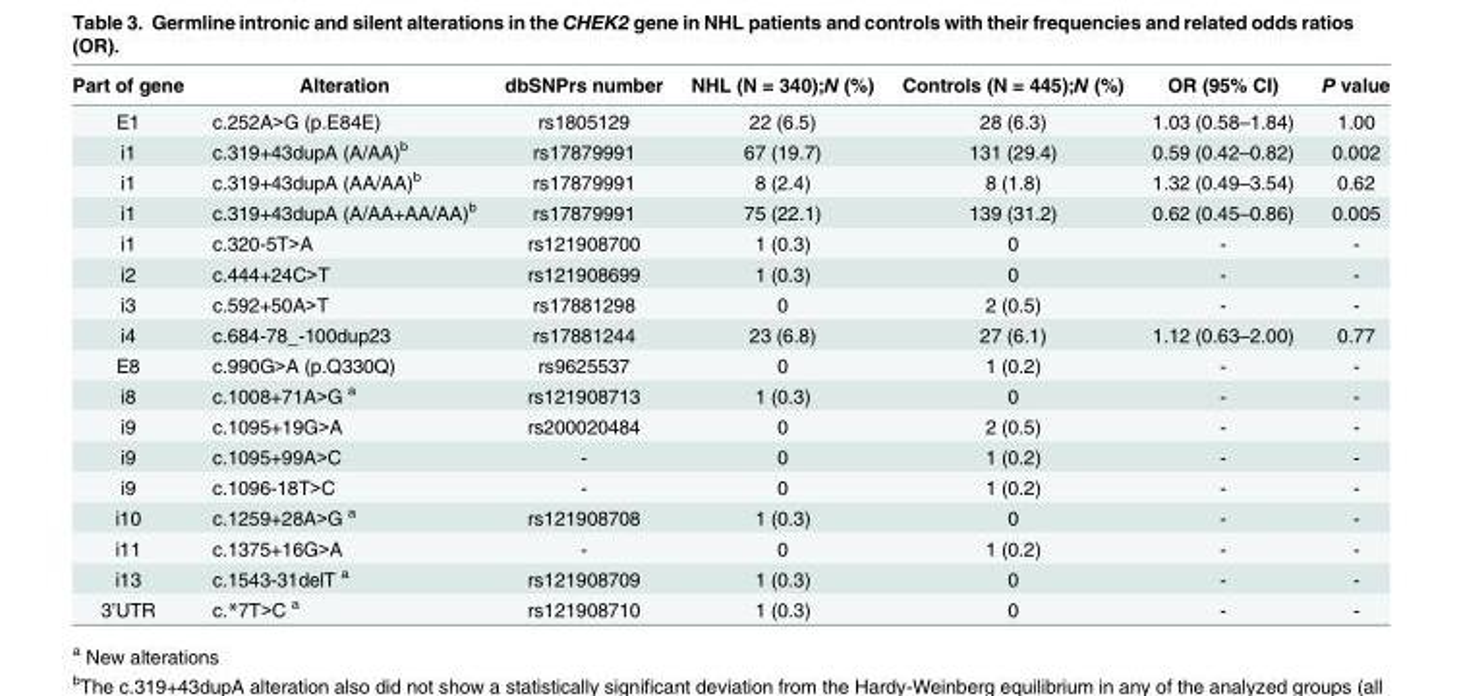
<table><thead><tr><td>Part of gene</td><td>Alteration</td><td>dbSNPrs number</td><td>NHL (N = 340);N (%)</td><td>Controls (N = 445);N (%)</td><td>OR (95% CI)</td><td>P value</td></tr></thead><tbody><tr><td>E1</td><td>c.252A&gt;G (p.E84E)</td><td>rs1805129</td><td>22 (6.5)</td><td>28 (6.3)</td><td>1.03 (0.58–1.84)</td><td>1.00</td></tr><tr><td>i1</td><td>c.319+43dupA (A/AA)<sup>b</sup></td><td>rs17879991</td><td>67 (19.7)</td><td>131 (29.4)</td><td>0.59 (0.42–0.82)</td><td>0.002</td></tr><tr><td>i1</td><td>c.319+43dupA (AA/AA)<sup>b</sup></td><td>rs17879991</td><td>8 (2.4)</td><td>8 (1.8)</td><td>1.32 (0.49–3.54)</td><td>0.62</td></tr><tr><td>i1</td><td>c.319+43dupA (A/AA+AA/AA)<sup>b</sup></td><td>rs17879991</td><td>75 (22.1)</td><td>139 (31.2)</td><td>0.62 (0.45–0.86)</td><td>0.005</td></tr><tr><td>i1</td><td>c.320-5T&gt;A</td><td>rs121908700</td><td>1 (0.3)</td><td>0</td><td>-</td><td>-</td></tr><tr><td>i2</td><td>c.444+24C&gt;T</td><td>rs121908699</td><td>1 (0.3)</td><td>0</td><td>-</td><td>-</td></tr><tr><td>i3</td><td>c.592+50A&gt;T</td><td>rs17881298</td><td>0</td><td>2 (0.5)</td><td>-</td><td>-</td></tr><tr><td>i4</td><td>c.684-78_-100dup23</td><td>rs17881244</td><td>23 (6.8)</td><td>27 (6.1)</td><td>1.12 (0.63–2.00)</td><td>0.77</td></tr><tr><td>E8</td><td>c.990G&gt;A (p.Q330Q)</td><td>rs9625537</td><td>0</td><td>1 (0.2)</td><td>-</td><td>-</td></tr><tr><td>i8</td><td>c.1008+71A&gt;G <sup>a</sup></td><td>rs121908713</td><td>1 (0.3)</td><td>0</td><td>-</td><td>-</td></tr><tr><td>i9</td><td>c.1095+19G&gt;A</td><td>rs200020484</td><td>0</td><td>2 (0.5)</td><td>-</td><td>-</td></tr><tr><td>i9</td><td>c.1095+99A&gt;C</td><td>-</td><td>0</td><td>1 (0.2)</td><td>-</td><td>-</td></tr><tr><td>i9</td><td>c.1096-18T&gt;C</td><td>-</td><td>0</td><td>1 (0.2)</td><td>-</td><td>-</td></tr><tr><td>i10</td><td>c.1259+28A&gt;G <sup>a</sup></td><td>rs121908708</td><td>1 (0.3)</td><td>0</td><td>-</td><td>-</td></tr><tr><td>i11</td><td>c.1375+16G&gt;A</td><td>-</td><td>0</td><td>1 (0.2)</td><td>-</td><td>-</td></tr><tr><td>i13</td><td>c.1543-31delT <sup>a</sup></td><td>rs121908709</td><td>1 (0.3)</td><td>0</td><td>-</td><td>-</td></tr><tr><td>3’UTR</td><td>c.*7T&gt;C <sup>a</sup></td><td>rs121908710</td><td>1 (0.3)</td><td>0</td><td>-</td><td>-</td></tr></tbody></table>